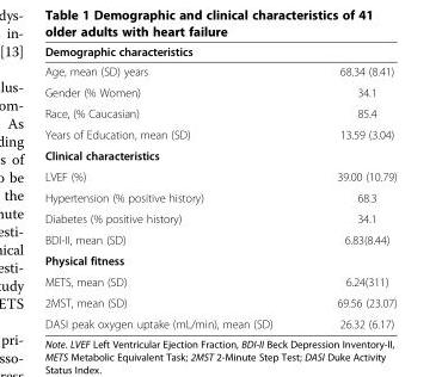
<table><thead><tr><td>Demographic characteristics</td><td></td></tr></thead><tbody><tr><td>Age, mean (SD) years</td><td>68.34 (8.41)</td></tr><tr><td>Gender (% Women)</td><td>34.1</td></tr><tr><td>Race, (% Caucasian)</td><td>85.4</td></tr><tr><td>Years of Education, mean (SD)</td><td>13.59 (3.04)</td></tr><tr><td colspan="2">Clinical characteristics</td></tr><tr><td>LVEF (%)</td><td>39.00 (10.79)</td></tr><tr><td>Hypertension (% positive history)</td><td>68.3</td></tr><tr><td>Diabetes (% positive history)</td><td>34.1</td></tr><tr><td>BDI-II, mean (SD)</td><td>6.83(8.44)</td></tr><tr><td colspan="2">Physical fitness</td></tr><tr><td>METS, mean (SD)</td><td>6.24(311)</td></tr><tr><td>2MST, mean (SD)</td><td>69.56 (23.07)</td></tr><tr><td>DASI peak oxygen uptake (mL/min), mean (SD)</td><td>26.32 (6.17)</td></tr></tbody></table>